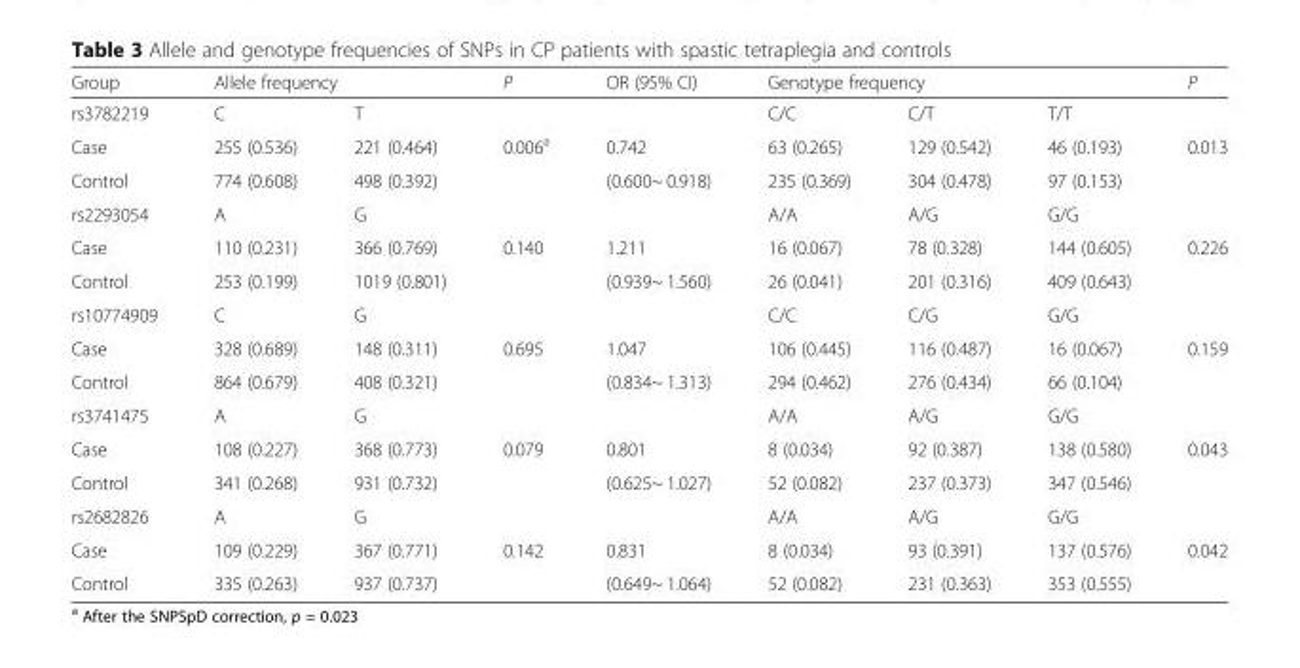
<table><thead><tr><td rowspan="2">Group rs3782219</td><td colspan="2">Allele frequency</td><td rowspan="2">P</td><td rowspan="2">OR (95% CI)</td><td colspan="3">Genotype frequency</td><td rowspan="2">P</td></tr><tr><td>C</td><td>T</td><td>C/C</td><td>C/T</td><td>T/T</td></tr></thead><tbody><tr><td>Case</td><td>255 (0.536)</td><td>221 (0.464)</td><td rowspan="2">0.006<sup>a</sup></td><td>0.742</td><td>63 (0.265)</td><td>129 (0.542)</td><td>46 (0.193)</td><td rowspan="2">0.013</td></tr><tr><td>Control</td><td>774 (0.608)</td><td>498 (0.392)</td><td>(0.600~ 0.918)</td><td>235 (0.369)</td><td>304 (0.478)</td><td>97 (0.153)</td></tr><tr><td>rs2293054</td><td>A</td><td>G</td><td></td><td></td><td>A/A</td><td>A/G</td><td>G/G</td><td></td></tr><tr><td>Case</td><td>110 (0.231)</td><td>366 (0.769)</td><td rowspan="2">0.140</td><td>1.211</td><td>16 (0.067)</td><td>78 (0.328)</td><td>144 (0.605)</td><td>0.226</td></tr><tr><td>Control</td><td>253 (0.199)</td><td>1019 (0.801)</td><td>(0.939~ 1.560)</td><td>26 (0.041)</td><td>201 (0.316)</td><td>409 (0.643)</td><td></td></tr><tr><td>rs10774909</td><td>C</td><td>G</td><td></td><td></td><td>C/C</td><td>C/G</td><td>G/G</td><td></td></tr><tr><td>Case</td><td>328 (0.689)</td><td>148 (0.311)</td><td rowspan="2">0.695</td><td>1.047</td><td>106 (0.445)</td><td>116 (0.487)</td><td>16 (0.067)</td><td>0.159</td></tr><tr><td>Control</td><td>864 (0.679)</td><td>408 (0.321)</td><td>(0.834~ 1.313)</td><td>294 (0.462)</td><td>276 (0.434)</td><td>66 (0.104)</td><td></td></tr><tr><td>rs3741475</td><td>A</td><td>G</td><td></td><td></td><td>A/A</td><td>A/G</td><td>G/G</td><td></td></tr><tr><td>Case</td><td>108 (0.227)</td><td>368 (0.773)</td><td rowspan="2">0.079</td><td>0.801</td><td>8 (0.034)</td><td>92 (0.387)</td><td>138 (0.580)</td><td>0.043</td></tr><tr><td>Control</td><td>341 (0.268)</td><td>931 (0.732)</td><td>(0.625~ 1.027)</td><td>52 (0.082)</td><td>237 (0.373)</td><td>347 (0.546)</td><td></td></tr><tr><td>rs2682826</td><td>A</td><td>G</td><td></td><td></td><td>A/A</td><td>A/G</td><td>G/G</td><td></td></tr><tr><td>Case</td><td>109 (0.229)</td><td>367 (0.771)</td><td rowspan="2">0.142</td><td>0.831</td><td>8 (0.034)</td><td>93 (0.391)</td><td>137 (0.576)</td><td>0.042</td></tr><tr><td>Control</td><td>335 (0.263)</td><td>937 (0.737)</td><td>(0.649~ 1.064)</td><td>52 (0.082)</td><td>231 (0.363)</td><td>353 (0.555)</td><td></td></tr></tbody></table>